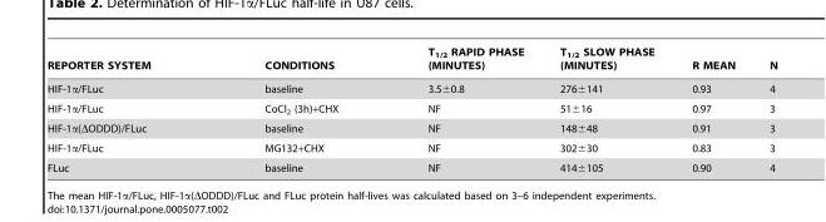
<table><thead><tr><td>REPORTER SYSTEM</td><td>CONDITIONS</td><td>T<sub>1/2</sub> RAPID PHASE (MINUTES)</td><td>T<sub>1/2</sub> SLOW PHASE (MINUTES)</td><td>R MEAN</td><td>N</td></tr></thead><tbody><tr><td>HIF-1α/FLuc</td><td>baseline</td><td>3.5±0.8</td><td>276±141</td><td>0.93</td><td>4</td></tr><tr><td>HIF-1α/FLuc</td><td>CoCl<sub>2</sub> (3h)+CHX</td><td>NF</td><td>51±16</td><td>0.97</td><td>3</td></tr><tr><td>HIF-1α(ΔODDD)/FLuc</td><td>baseline</td><td>NF</td><td>148±48</td><td>0.91</td><td>3</td></tr><tr><td>HIF-1α/FLuc</td><td>MG132+CHX</td><td>NF</td><td>302±30</td><td>0.83</td><td>3</td></tr><tr><td>FLuc</td><td>baseline</td><td>NF</td><td>414±105</td><td>0.90</td><td>4</td></tr></tbody></table>